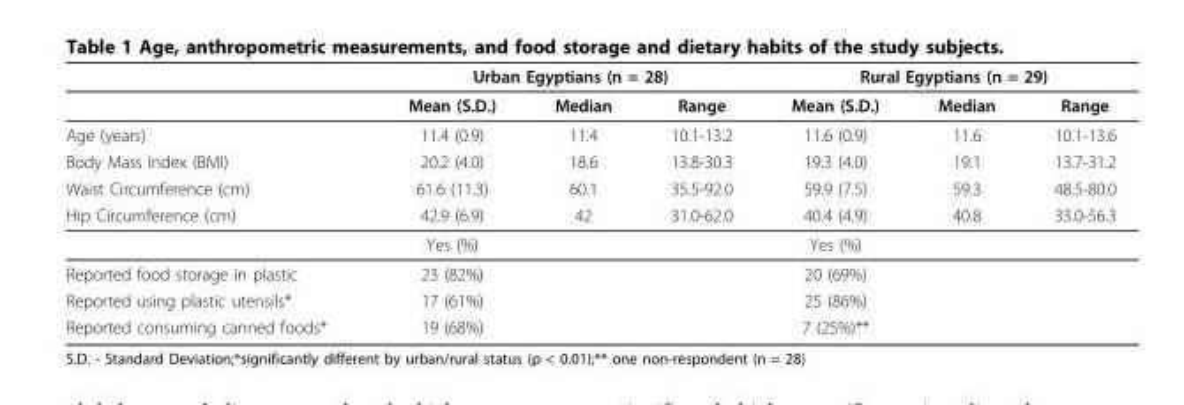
<table><thead><tr><td rowspan="2"></td><td colspan="3">Urban Egyptians (n = 28)</td><td colspan="3">Rural Egyptians (n = 29)</td></tr><tr><td>Mean (S.D.)</td><td>Median</td><td>Range</td><td>Mean (S.D.)</td><td>Median</td><td>Range</td></tr></thead><tbody><tr><td>Age (years)</td><td>11.4 (0.9)</td><td>11.4</td><td>10.1-13.2</td><td>11.6 (0.9)</td><td>11.6</td><td>10.1-13.6</td></tr><tr><td>Body Mass Index (BMI)</td><td>20.2 (4.0)</td><td>18.6</td><td>13.8-30.3</td><td>19.3 (4.0)</td><td>19.1</td><td>13.7-31.2</td></tr><tr><td>Waist Circumference (cm)</td><td>61.6 (11.3)</td><td>60.1</td><td>35.5-92.0</td><td>59.9 (7.5)</td><td>59.3</td><td>48.5-80.0</td></tr><tr><td rowspan="2">Hip Circumference (cm)</td><td>42.9 (6.9)</td><td>42</td><td>31.0-62.0</td><td>40.4 (4.9)</td><td>40.8</td><td>33.0-56.3</td></tr><tr><td>Yes (%)</td><td></td><td></td><td>Yes (%)</td><td></td><td></td></tr><tr><td>Reported food storage in plastic</td><td>23 (82%)</td><td></td><td></td><td>20 (69%)</td><td></td><td></td></tr><tr><td>Reported using plastic utensils*</td><td>17 (61%)</td><td></td><td></td><td>25 (86%)</td><td></td><td></td></tr><tr><td>Reported consuming canned foods*</td><td>19 (68%)</td><td></td><td></td><td>7 (25%)**</td><td></td><td></td></tr></tbody></table>